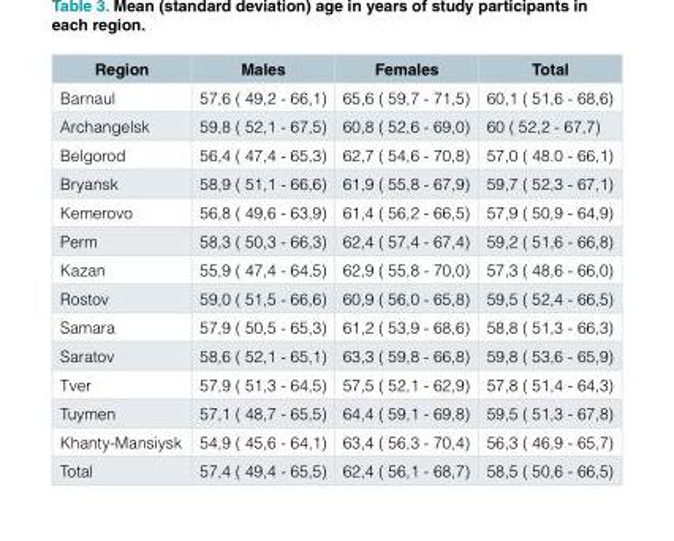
<table><thead><tr><td>Region</td><td>Males</td><td>Females</td><td>Total</td></tr></thead><tbody><tr><td>Barnaul</td><td>57,6 ( 49,2 - 66,1)</td><td>65,6 ( 59,7 - 71,5)</td><td>60,1 ( 51,6 - 68,6)</td></tr><tr><td>Archangelsk</td><td>59,8 ( 52,1 - 67,5)</td><td>60,8 ( 52,6 - 69,0)</td><td>60 ( 52,2 - 67,7)</td></tr><tr><td>Belgorod</td><td>56,4 ( 47,4 - 65,3)</td><td>62,7 ( 54,6 - 70,8)</td><td>57,0 ( 48.0 - 66,1)</td></tr><tr><td>Bryansk</td><td>58,9 ( 51,1 - 66,6)</td><td>61,9 ( 55,8 - 67,9)</td><td>59,7 ( 52,3 - 67,1)</td></tr><tr><td>Kemerovo</td><td>56,8 ( 49,6 - 63,9)</td><td>61,4 ( 56,2 - 66,5)</td><td>57,9 ( 50,9 - 64,9)</td></tr><tr><td>Perm</td><td>58,3 ( 50,3 - 66,3)</td><td>62,4 ( 57,4 - 67,4)</td><td>59,2 ( 51,6 - 66,8)</td></tr><tr><td>Kazan</td><td>55,9 ( 47,4 - 64,5)</td><td>62,9 ( 55,8 - 70,0)</td><td>57,3 ( 48,6 - 66,0)</td></tr><tr><td>Rostov</td><td>59,0 ( 51,5 - 66,6)</td><td>60,9 ( 56,0 - 65,8)</td><td>59,5 ( 52,4 - 66,5)</td></tr><tr><td>Samara</td><td>57,9 ( 50,5 - 65,3)</td><td>61,2 ( 53,9 - 68,6)</td><td>58,8 ( 51,3 - 66,3)</td></tr><tr><td>Saratov</td><td>58,6 ( 52,1 - 65,1)</td><td>63,3 ( 59,8 - 66,8)</td><td>59,8 ( 53,6 - 65,9)</td></tr><tr><td>Tver</td><td>57,9 ( 51,3 - 64,5)</td><td>57,5 ( 52,1 - 62,9)</td><td>57,8 ( 51,4 - 64,3)</td></tr><tr><td>Tuymen</td><td>57,1 ( 48,7 - 65,5)</td><td>64,4 ( 59,1 - 69,8)</td><td>59,5 ( 51,3 - 67,8)</td></tr><tr><td>Khanty-Mansiysk</td><td>54,9 ( 45,6 - 64,1)</td><td>63,4 ( 56,3 - 70,4)</td><td>56,3 ( 46,9 - 65,7)</td></tr><tr><td>Total</td><td>57,4 ( 49,4 - 65,5)</td><td>62,4 ( 56,1 - 68,7)</td><td>58,5 ( 50,6 - 66,5)</td></tr></tbody></table>